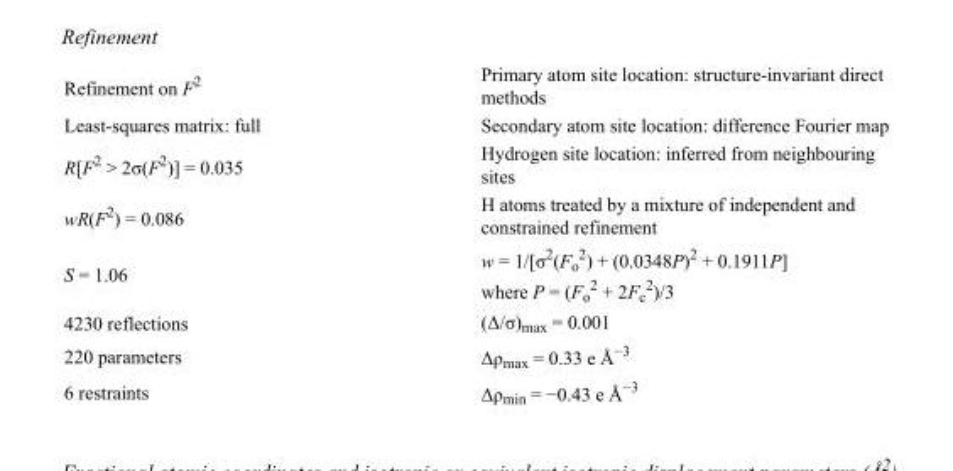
<table><tbody><tr><td>Refinement on F<sup>2</sup></td><td>Primary atom site location: structure-invariant direct methods</td></tr><tr><td>Least-squares matrix: full</td><td>Secondary atom site location: difference Fourier map</td></tr><tr><td>R[F<sup>2</sup> &gt; 2σ(F<sup>2</sup>)] = 0.035</td><td>Hydrogen site location: inferred from neighbouring sites</td></tr><tr><td>wR(F<sup>2</sup>) = 0.086</td><td>H atoms treated by a mixture of independent and constrained refinement</td></tr><tr><td>S = 1.06</td><td>w = 1/[σ<sup>2</sup>(F<sub>o</sub> <sup>2</sup>) + (0.0348P)<sup>2</sup> + 0.1911P] where P = (F<sub>o</sub> <sup>2</sup> + 2F<sub>c</sub> <sup>2</sup>)/3</td></tr><tr><td>4230 reflections</td><td>(Δ/σ)<sub>max</sub> = 0.001</td></tr><tr><td>220 parameters</td><td>Δρ<sub>max</sub> = 0.33 e Å<sup>−3</sup></td></tr><tr><td>6 restraints</td><td>Δρ<sub>min</sub> = −0.43 e Å<sup>−3</sup></td></tr></tbody></table>